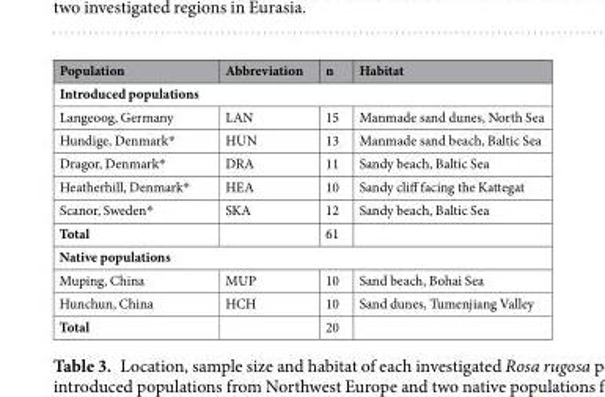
<table><thead><tr><td>Population</td><td>Abbreviation</td><td>n</td><td>Habitat</td></tr></thead><tbody><tr><td colspan="4">Introduced populations</td></tr><tr><td>Langeoog, Germany</td><td>LAN</td><td>15</td><td>Manmade sand dunes, North Sea</td></tr><tr><td>Hundige, Denmark*</td><td>HUN</td><td>13</td><td>Manmade sand beach, Baltic Sea</td></tr><tr><td>Dragor, Denmark*</td><td>DRA</td><td>11</td><td>Sandy beach, Baltic Sea</td></tr><tr><td>Heatherhill, Denmark*</td><td>HEA</td><td>10</td><td>Sandy cliff facing the Kattegat</td></tr><tr><td>Scanor, Sweden*</td><td>SKA</td><td>12</td><td>Sandy beach, Baltic Sea</td></tr><tr><td>Total</td><td></td><td>61</td><td></td></tr><tr><td colspan="4">Native populations</td></tr><tr><td>Muping, China</td><td>MUP</td><td>10</td><td>Sand beach, Bohai Sea</td></tr><tr><td>Hunchun, China</td><td>HCH</td><td>10</td><td>Sand dunes, Tumenjiang Valley</td></tr><tr><td>Total</td><td></td><td>20</td><td></td></tr></tbody></table>